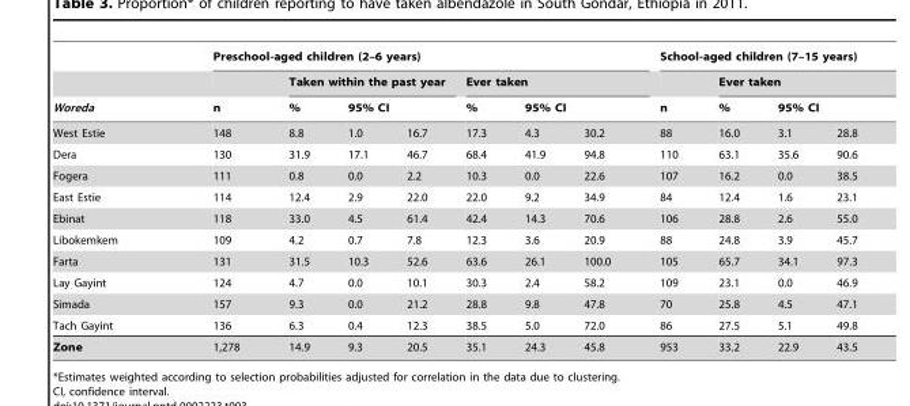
<table><thead><tr><td rowspan="4">Woreda West Estie</td><td colspan="7">Preschool-aged children (2–6 years)</td><td colspan="4">School-aged children (7–15 years)</td></tr><tr><td rowspan="3">n 148</td><td colspan="3">Taken within the past year</td><td colspan="3">Ever taken</td><td rowspan="3">n 88</td><td colspan="3">Ever taken</td></tr><tr><td rowspan="2">% 8.8</td><td colspan="2">95% CI</td><td rowspan="2">% 17.3</td><td colspan="2">95% CI</td><td rowspan="2">% 16.0</td><td colspan="2">95% CI</td></tr><tr><td>1.0</td><td>16.7</td><td>4.3</td><td>30.2</td><td>3.1</td><td>28.8</td></tr></thead><tbody><tr><td>Dera</td><td>130</td><td>31.9</td><td>17.1</td><td>46.7</td><td>68.4</td><td>41.9</td><td>94.8</td><td>110</td><td>63.1</td><td>35.6</td><td>90.6</td></tr><tr><td>Fogera</td><td>111</td><td>0.8</td><td>0.0</td><td>2.2</td><td>10.3</td><td>0.0</td><td>22.6</td><td>107</td><td>16.2</td><td>0.0</td><td>38.5</td></tr><tr><td>East Estie</td><td>114</td><td>12.4</td><td>2.9</td><td>22.0</td><td>22.0</td><td>9.2</td><td>34.9</td><td>84</td><td>12.4</td><td>1.6</td><td>23.1</td></tr><tr><td>Ebinat</td><td>118</td><td>33.0</td><td>4.5</td><td>61.4</td><td>42.4</td><td>14.3</td><td>70.6</td><td>106</td><td>28.8</td><td>2.6</td><td>55.0</td></tr><tr><td>Libokemkem</td><td>109</td><td>4.2</td><td>0.7</td><td>7.8</td><td>12.3</td><td>3.6</td><td>20.9</td><td>88</td><td>24.8</td><td>3.9</td><td>45.7</td></tr><tr><td>Farta</td><td>131</td><td>31.5</td><td>10.3</td><td>52.6</td><td>63.6</td><td>26.1</td><td>100.0</td><td>105</td><td>65.7</td><td>34.1</td><td>97.3</td></tr><tr><td>Lay Gayint</td><td>124</td><td>4.7</td><td>0.0</td><td>10.1</td><td>30.3</td><td>2.4</td><td>58.2</td><td>109</td><td>23.1</td><td>0.0</td><td>46.9</td></tr><tr><td>Simada</td><td>157</td><td>9.3</td><td>0.0</td><td>21.2</td><td>28.8</td><td>9.8</td><td>47.8</td><td>70</td><td>25.8</td><td>4.5</td><td>47.1</td></tr><tr><td>Tach Gayint</td><td>136</td><td>6.3</td><td>0.4</td><td>12.3</td><td>38.5</td><td>5.0</td><td>72.0</td><td>86</td><td>27.5</td><td>5.1</td><td>49.8</td></tr><tr><td>Zone</td><td>1,278</td><td>14.9</td><td>9.3</td><td>20.5</td><td>35.1</td><td>24.3</td><td>45.8</td><td>953</td><td>33.2</td><td>22.9</td><td>43.5</td></tr></tbody></table>